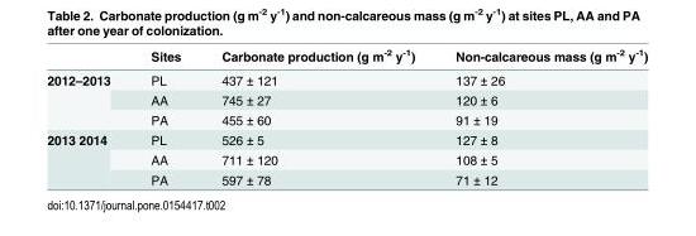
<table><thead><tr><td></td><td>Sites</td><td>Carbonate production (g m<sup>-2</sup> y<sup>-1</sup>)</td><td>Non-calcareous mass (g m<sup>-2</sup> y<sup>-1</sup>)</td></tr></thead><tbody><tr><td rowspan="3">2012–2013</td><td>PL</td><td>437 ± 121</td><td>137 ± 26</td></tr><tr><td>AA</td><td>745 ± 27</td><td>120 ± 6</td></tr><tr><td>PA</td><td>455 ± 60</td><td>91 ± 19</td></tr><tr><td rowspan="3">2013 2014</td><td>PL</td><td>526 ± 5</td><td>127 ± 8</td></tr><tr><td>AA</td><td>711 ± 120</td><td>108 ± 5</td></tr><tr><td>PA</td><td>597 ± 78</td><td>71 ± 12</td></tr></tbody></table>